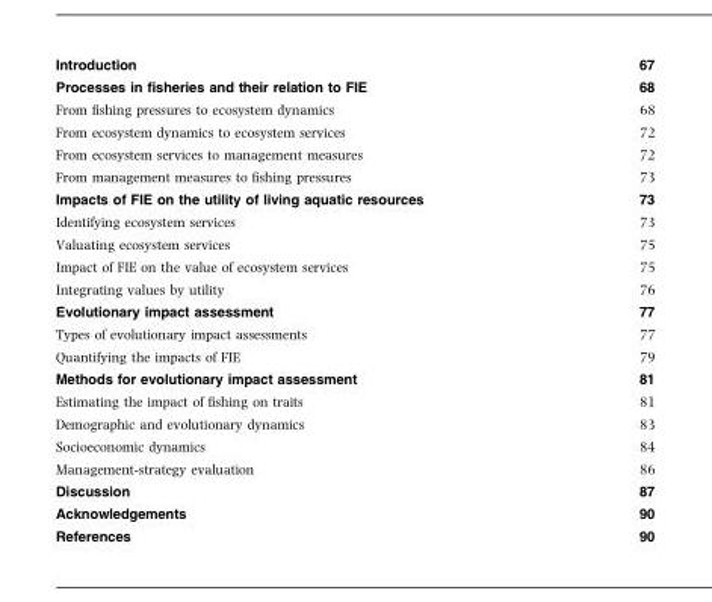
<table><tbody><tr><td>Introduction</td><td>67</td></tr><tr><td>Processes in fisheries and their relation to FIE</td><td>68</td></tr><tr><td>From fishing pressures to ecosystem dynamics</td><td>68</td></tr><tr><td>From ecosystem dynamics to ecosystem services</td><td>72</td></tr><tr><td>From ecosystem services to management measures</td><td>72</td></tr><tr><td>From management measures to fishing pressures</td><td>73</td></tr><tr><td>Impacts of FIE on the utility of living aquatic resources</td><td>73</td></tr><tr><td>Identifying ecosystem services</td><td>73</td></tr><tr><td>Valuating ecosystem services</td><td>75</td></tr><tr><td>Impact of FIE on the value of ecosystem services</td><td>75</td></tr><tr><td>Integrating values by utility</td><td>76</td></tr><tr><td>Evolutionary impact assessment</td><td>77</td></tr><tr><td>Types of evolutionary impact assessments</td><td>77</td></tr><tr><td>Quantifying the impacts of FIE</td><td>79</td></tr><tr><td>Methods for evolutionary impact assessment</td><td>81</td></tr><tr><td>Estimating the impact of fishing on traits</td><td>81</td></tr><tr><td>Demographic and evolutionary dynamics</td><td>83</td></tr><tr><td>Socioeconomic dynamics</td><td>84</td></tr><tr><td>Management-strategy evaluation</td><td>86</td></tr><tr><td>Discussion</td><td>87</td></tr><tr><td>Acknowledgements</td><td>90</td></tr><tr><td>References</td><td>90</td></tr></tbody></table>